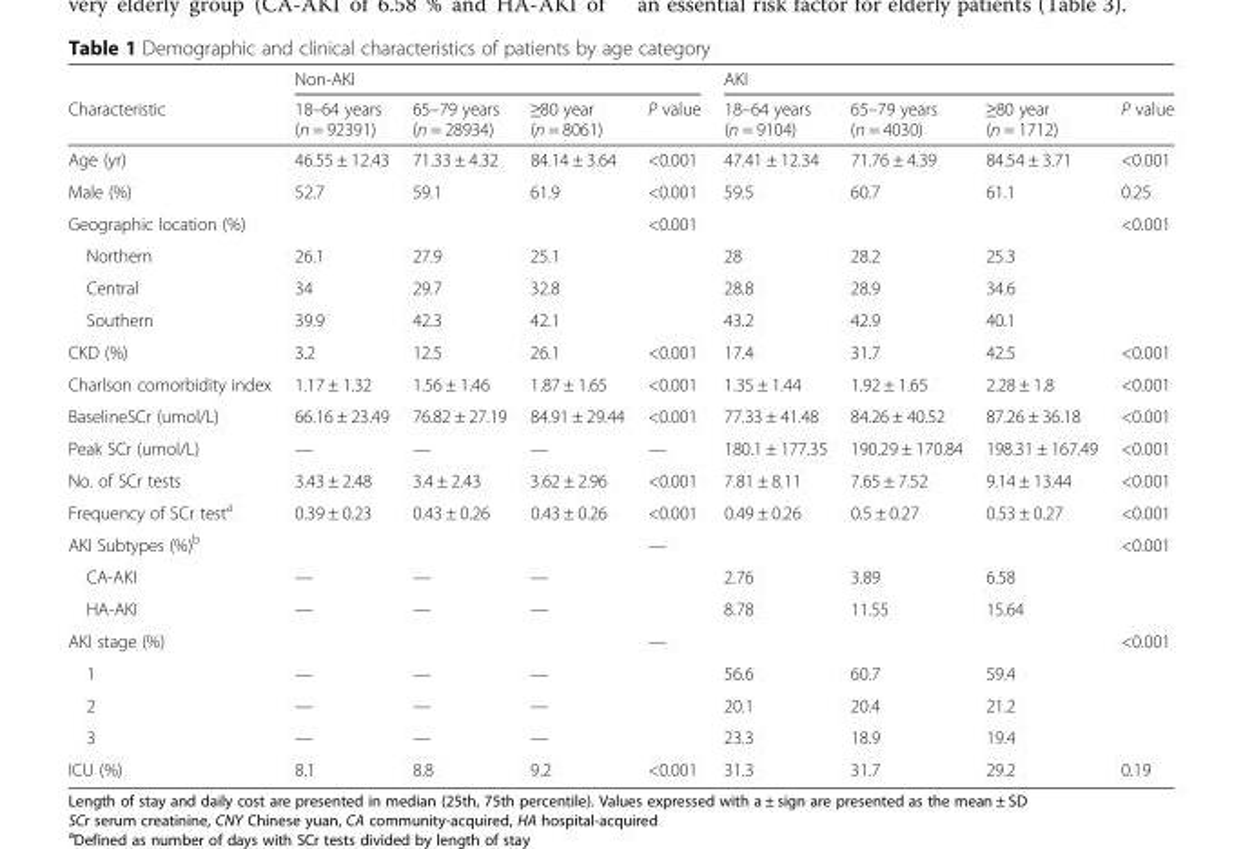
<table><thead><tr><td rowspan="2">Characteristic</td><td colspan="4">Non-AKI</td><td colspan="4">AKI</td></tr><tr><td>18–64 years (n = 92391)</td><td>65–79 years (n = 28934)</td><td>≥80 year (n = 8061)</td><td>P value</td><td>18–64 years (n = 9104)</td><td>65–79 years (n = 4030)</td><td>≥80 year (n = 1712)</td><td>P value</td></tr></thead><tbody><tr><td>Age (yr)</td><td>46.55 ± 12.43</td><td>71.33 ± 4.32</td><td>84.14 ± 3.64</td><td>&lt;0.001</td><td>47.41 ± 12.34</td><td>71.76 ± 4.39</td><td>84.54 ± 3.71</td><td>&lt;0.001</td></tr><tr><td>Male (%)</td><td>52.7</td><td>59.1</td><td>61.9</td><td>&lt;0.001</td><td>59.5</td><td>60.7</td><td>61.1</td><td>0.25</td></tr><tr><td>Geographic location (%)</td><td></td><td></td><td></td><td>&lt;0.001</td><td></td><td></td><td></td><td>&lt;0.001</td></tr><tr><td>Northern</td><td>26.1</td><td>27.9</td><td>25.1</td><td></td><td>28</td><td>28.2</td><td>25.3</td><td></td></tr><tr><td>Central</td><td>34</td><td>29.7</td><td>32.8</td><td></td><td>28.8</td><td>28.9</td><td>34.6</td><td></td></tr><tr><td>Southern</td><td>39.9</td><td>42.3</td><td>42.1</td><td></td><td>43.2</td><td>42.9</td><td>40.1</td><td></td></tr><tr><td>CKD (%)</td><td>3.2</td><td>12.5</td><td>26.1</td><td>&lt;0.001</td><td>17.4</td><td>31.7</td><td>42.5</td><td>&lt;0.001</td></tr><tr><td>Charlson comorbidity index</td><td>1.17 ± 1.32</td><td>1.56 ± 1.46</td><td>1.87 ± 1.65</td><td>&lt;0.001</td><td>1.35 ± 1.44</td><td>1.92 ± 1.65</td><td>2.28 ± 1.8</td><td>&lt;0.001</td></tr><tr><td>BaselineSCr (umol/L)</td><td>66.16 ± 23.49</td><td>76.82 ± 27.19</td><td>84.91 ± 29.44</td><td>&lt;0.001</td><td>77.33 ± 41.48</td><td>84.26 ± 40.52</td><td>87.26 ± 36.18</td><td>&lt;0.001</td></tr><tr><td>Peak SCr (umol/L)</td><td>—</td><td>—</td><td>—</td><td>—</td><td>180.1 ± 177.35</td><td>190.29 ± 170.84</td><td>198.31 ± 167.49</td><td>&lt;0.001</td></tr><tr><td>No. of SCr tests</td><td>3.43 ± 2.48</td><td>3.4 ± 2.43</td><td>3.62 ± 2.96</td><td>&lt;0.001</td><td>7.81 ± 8.11</td><td>7.65 ± 7.52</td><td>9.14 ± 13.44</td><td>&lt;0.001</td></tr><tr><td>Frequency of SCr test<sup>a</sup></td><td>0.39 ± 0.23</td><td>0.43 ± 0.26</td><td>0.43 ± 0.26</td><td>&lt;0.001</td><td>0.49 ± 0.26</td><td>0.5 ± 0.27</td><td>0.53 ± 0.27</td><td>&lt;0.001</td></tr><tr><td>AKI Subtypes (%)<sup>b</sup></td><td></td><td></td><td></td><td>—</td><td></td><td></td><td></td><td>&lt;0.001</td></tr><tr><td>CA-AKI</td><td>—</td><td>—</td><td>—</td><td></td><td>2.76</td><td>3.89</td><td>6.58</td><td></td></tr><tr><td>HA-AKI</td><td>—</td><td>—</td><td>—</td><td></td><td>8.78</td><td>11.55</td><td>15.64</td><td></td></tr><tr><td>AKI stage (%)</td><td></td><td></td><td></td><td>—</td><td></td><td></td><td></td><td>&lt;0.001</td></tr><tr><td>1</td><td>—</td><td>—</td><td>—</td><td></td><td>56.6</td><td>60.7</td><td>59.4</td><td></td></tr><tr><td>2</td><td>—</td><td>—</td><td>—</td><td></td><td>20.1</td><td>20.4</td><td>21.2</td><td></td></tr><tr><td>3</td><td>—</td><td>—</td><td>—</td><td></td><td>23.3</td><td>18.9</td><td>19.4</td><td></td></tr><tr><td>ICU (%)</td><td>8.1</td><td>8.8</td><td>9.2</td><td>&lt;0.001</td><td>31.3</td><td>31.7</td><td>29.2</td><td>0.19</td></tr></tbody></table>